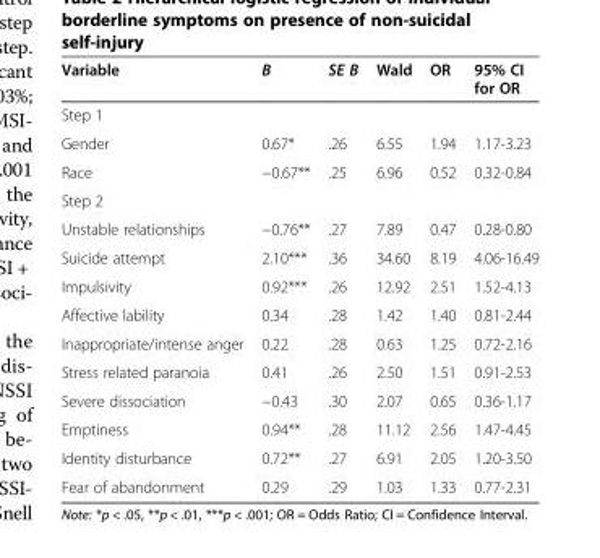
<table><thead><tr><td>Variable</td><td>B</td><td>SE B</td><td>Wald</td><td>OR</td><td>95% CI for OR</td></tr></thead><tbody><tr><td colspan="6">Step 1</td></tr><tr><td>Gender</td><td>0.67*</td><td>.26</td><td>6.55</td><td>1.94</td><td>1.17-3.23</td></tr><tr><td>Race</td><td>−0.67**</td><td>.25</td><td>6.96</td><td>0.52</td><td>0.32-0.84</td></tr><tr><td colspan="6">Step 2</td></tr><tr><td>Unstable relationships</td><td>−0.76**</td><td>.27</td><td>7.89</td><td>0.47</td><td>0.28-0.80</td></tr><tr><td>Suicide attempt</td><td>2.10***</td><td>.36</td><td>34.60</td><td>8.19</td><td>4.06-16.49</td></tr><tr><td>Impulsivity</td><td>0.92***</td><td>.26</td><td>12.92</td><td>2.51</td><td>1.52-4.13</td></tr><tr><td>Affective lability</td><td>0.34</td><td>.28</td><td>1.42</td><td>1.40</td><td>0.81-2.44</td></tr><tr><td>Inappropriate/intense anger</td><td>0.22</td><td>.28</td><td>0.63</td><td>1.25</td><td>0.72-2.16</td></tr><tr><td>Stress related paranoia</td><td>0.41</td><td>.26</td><td>2.50</td><td>1.51</td><td>0.91-2.53</td></tr><tr><td>Severe dissociation</td><td>−0.43</td><td>.30</td><td>2.07</td><td>0.65</td><td>0.36-1.17</td></tr><tr><td>Emptiness</td><td>0.94**</td><td>.28</td><td>11.12</td><td>2.56</td><td>1.47-4.45</td></tr><tr><td>Identity disturbance</td><td>0.72**</td><td>.27</td><td>6.91</td><td>2.05</td><td>1.20-3.50</td></tr><tr><td>Fear of abandonment</td><td>0.29</td><td>.29</td><td>1.03</td><td>1.33</td><td>0.77-2.31</td></tr></tbody></table>